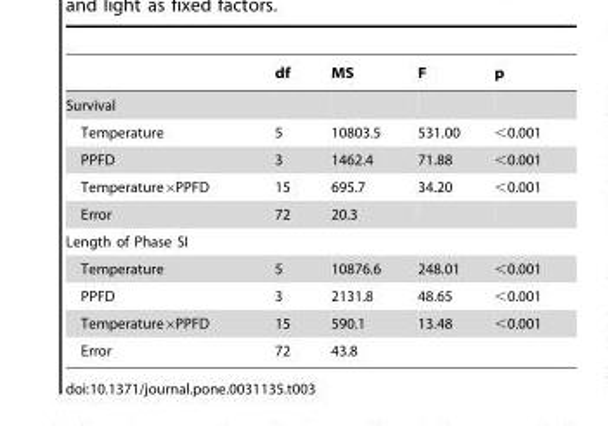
<table><thead><tr><td></td><td>df</td><td>MS</td><td>F</td><td>p</td></tr></thead><tbody><tr><td colspan="5">Survival</td></tr><tr><td>Temperature</td><td>5</td><td>10803.5</td><td>531.00</td><td>&lt;0.001</td></tr><tr><td>PPFD</td><td>3</td><td>1462.4</td><td>71.88</td><td>&lt;0.001</td></tr><tr><td>Temperature×PPFD</td><td>15</td><td>695.7</td><td>34.20</td><td>&lt;0.001</td></tr><tr><td>Error</td><td>72</td><td>20.3</td><td></td><td></td></tr><tr><td colspan="5">Length of Phase SI</td></tr><tr><td>Temperature</td><td>5</td><td>10876.6</td><td>248.01</td><td>&lt;0.001</td></tr><tr><td>PPFD</td><td>3</td><td>2131.8</td><td>48.65</td><td>&lt;0.001</td></tr><tr><td>Temperature×PPFD</td><td>15</td><td>590.1</td><td>13.48</td><td>&lt;0.001</td></tr><tr><td>Error</td><td>72</td><td>43.8</td><td></td><td></td></tr></tbody></table>